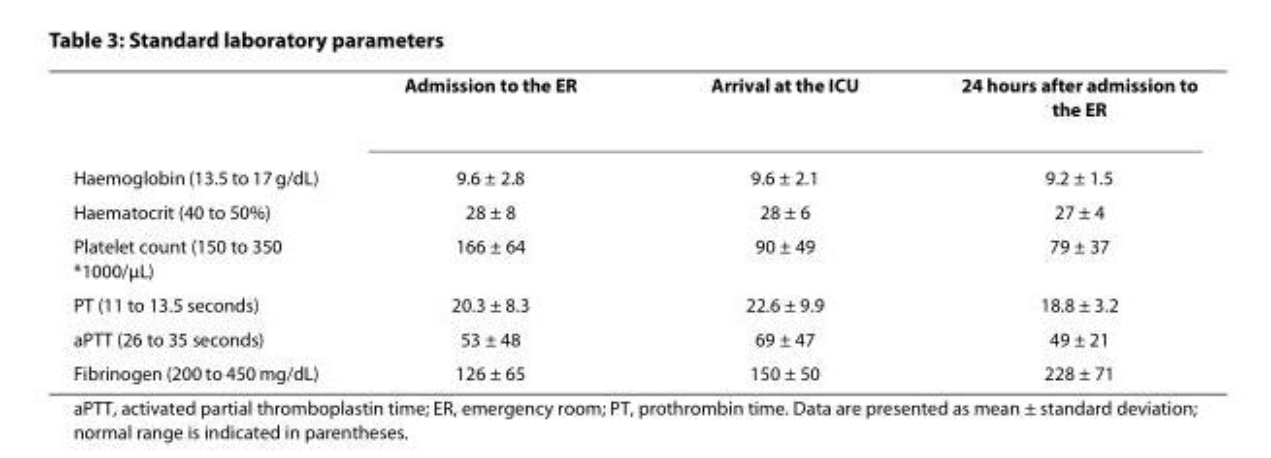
<table><thead><tr><td></td><td>Admission to the ER</td><td>Arrival at the ICU</td><td>24 hours after admission to the ER</td></tr></thead><tbody><tr><td>Haemoglobin (13.5 to 17 g/dL)</td><td>9.6 ± 2.8</td><td>9.6 ± 2.1</td><td>9.2 ± 1.5</td></tr><tr><td>Haematocrit (40 to 50%)</td><td>28 ± 8</td><td>28 ± 6</td><td>27 ± 4</td></tr><tr><td>Platelet count (150 to 350 *1000/μL)</td><td>166 ± 64</td><td>90 ± 49</td><td>79 ± 37</td></tr><tr><td>PT (11 to 13.5 seconds)</td><td>20.3 ± 8.3</td><td>22.6 ± 9.9</td><td>18.8 ± 3.2</td></tr><tr><td>aPTT (26 to 35 seconds)</td><td>53 ± 48</td><td>69 ± 47</td><td>49 ± 21</td></tr><tr><td>Fibrinogen (200 to 450 mg/dL)</td><td>126 ± 65</td><td>150 ± 50</td><td>228 ± 71</td></tr></tbody></table>